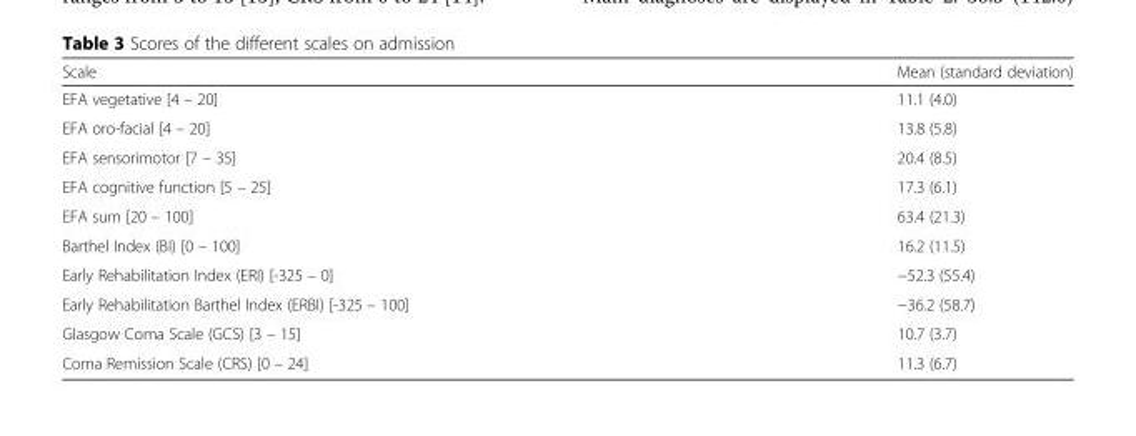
<table><thead><tr><td>Scale</td><td>Mean (standard deviation)</td></tr></thead><tbody><tr><td>EFA vegetative [4 – 20]</td><td>11.1 (4.0)</td></tr><tr><td>EFA oro-facial [4 – 20]</td><td>13.8 (5.8)</td></tr><tr><td>EFA sensorimotor [7 – 35]</td><td>20.4 (8.5)</td></tr><tr><td>EFA cognitive function [5 – 25]</td><td>17.3 (6.1)</td></tr><tr><td>EFA sum [20 – 100]</td><td>63.4 (21.3)</td></tr><tr><td>Barthel Index (BI) [0 – 100]</td><td>16.2 (11.5)</td></tr><tr><td>Early Rehabilitation Index (ERI) [-325 – 0]</td><td>−52.3 (55.4)</td></tr><tr><td>Early Rehabilitation Barthel Index (ERBI) [-325 – 100]</td><td>−36.2 (58.7)</td></tr><tr><td>Glasgow Coma Scale (GCS) [3 – 15]</td><td>10.7 (3.7)</td></tr><tr><td>Coma Remission Scale (CRS) [0 – 24]</td><td>11.3 (6.7)</td></tr></tbody></table>